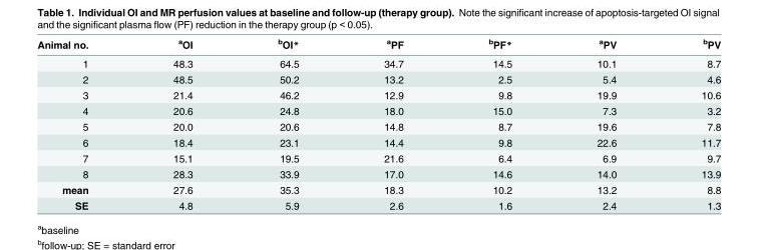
<table><thead><tr><td>Animal no.</td><td><sup>a</sup>OI</td><td><sup>b</sup>OI*</td><td><sup>a</sup>PF</td><td><sup>b</sup>PF*</td><td><sup>a</sup>PV</td><td><sup>b</sup>PV</td></tr></thead><tbody><tr><td>1</td><td>48.3</td><td>64.5</td><td>34.7</td><td>14.5</td><td>10.1</td><td>8.7</td></tr><tr><td>2</td><td>48.5</td><td>50.2</td><td>13.2</td><td>2.5</td><td>5.4</td><td>4.6</td></tr><tr><td>3</td><td>21.4</td><td>46.2</td><td>12.9</td><td>9.8</td><td>19.9</td><td>10.6</td></tr><tr><td>4</td><td>20.6</td><td>24.8</td><td>18.0</td><td>15.0</td><td>7.3</td><td>3.2</td></tr><tr><td>5</td><td>20.0</td><td>20.6</td><td>14.8</td><td>8.7</td><td>19.6</td><td>7.8</td></tr><tr><td>6</td><td>18.4</td><td>23.1</td><td>14.4</td><td>9.8</td><td>22.6</td><td>11.7</td></tr><tr><td>7</td><td>15.1</td><td>19.5</td><td>21.6</td><td>6.4</td><td>6.9</td><td>9.7</td></tr><tr><td>8</td><td>28.3</td><td>33.9</td><td>17.0</td><td>14.6</td><td>14.0</td><td>13.9</td></tr><tr><td>mean</td><td>27.6</td><td>35.3</td><td>18.3</td><td>10.2</td><td>13.2</td><td>8.8</td></tr><tr><td>SE</td><td>4.8</td><td>5.9</td><td>2.6</td><td>1.6</td><td>2.4</td><td>1.3</td></tr></tbody></table>